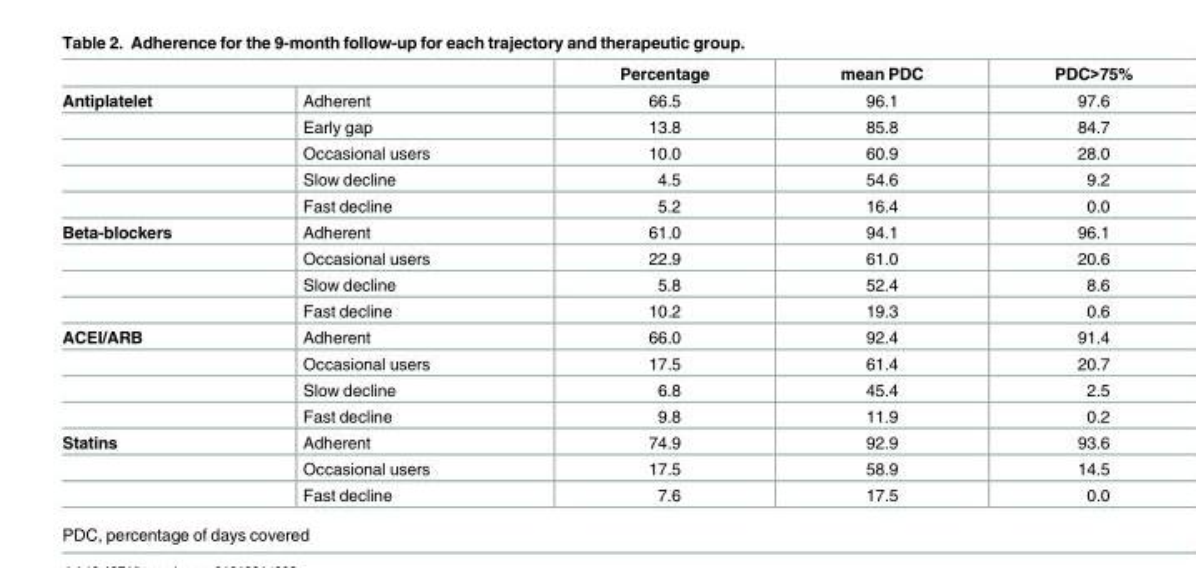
<table><thead><tr><td></td><td></td><td>Percentage</td><td>mean PDC</td><td>PDC&gt;75%</td></tr></thead><tbody><tr><td rowspan="5">Antiplatelet</td><td>Adherent</td><td>66.5</td><td>96.1</td><td>97.6</td></tr><tr><td>Early gap</td><td>13.8</td><td>85.8</td><td>84.7</td></tr><tr><td>Occasional users</td><td>10.0</td><td>60.9</td><td>28.0</td></tr><tr><td>Slow decline</td><td>4.5</td><td>54.6</td><td>9.2</td></tr><tr><td>Fast decline</td><td>5.2</td><td>16.4</td><td>0.0</td></tr><tr><td rowspan="4">Beta-blockers</td><td>Adherent</td><td>61.0</td><td>94.1</td><td>96.1</td></tr><tr><td>Occasional users</td><td>22.9</td><td>61.0</td><td>20.6</td></tr><tr><td>Slow decline</td><td>5.8</td><td>52.4</td><td>8.6</td></tr><tr><td>Fast decline</td><td>10.2</td><td>19.3</td><td>0.6</td></tr><tr><td rowspan="4">ACEI/ARB</td><td>Adherent</td><td>66.0</td><td>92.4</td><td>91.4</td></tr><tr><td>Occasional users</td><td>17.5</td><td>61.4</td><td>20.7</td></tr><tr><td>Slow decline</td><td>6.8</td><td>45.4</td><td>2.5</td></tr><tr><td>Fast decline</td><td>9.8</td><td>11.9</td><td>0.2</td></tr><tr><td rowspan="3">Statins</td><td>Adherent</td><td>74.9</td><td>92.9</td><td>93.6</td></tr><tr><td>Occasional users</td><td>17.5</td><td>58.9</td><td>14.5</td></tr><tr><td>Fast decline</td><td>7.6</td><td>17.5</td><td>0.0</td></tr></tbody></table>